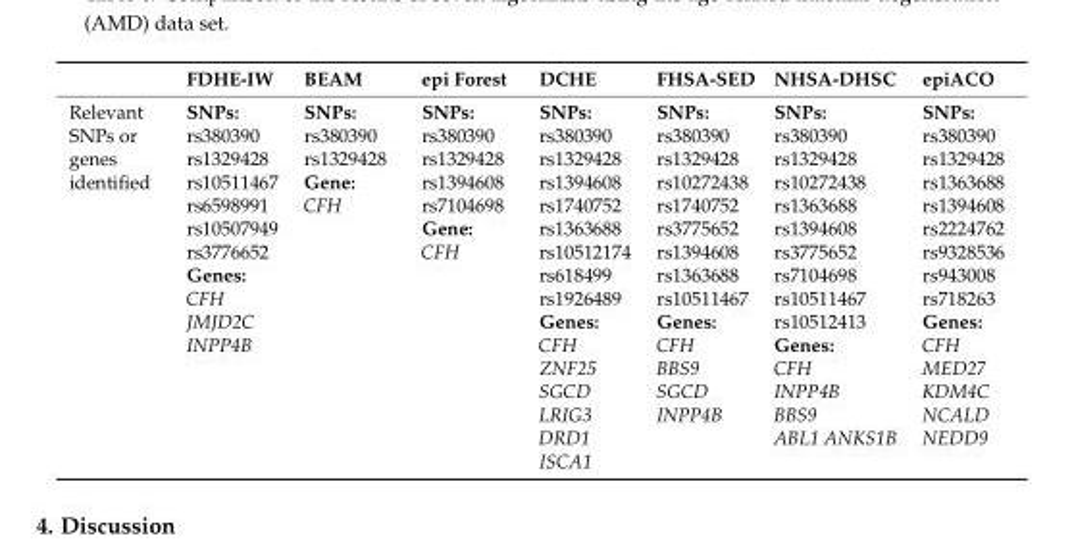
<table><thead><tr><td></td><td>FDHE-IW</td><td>BEAM</td><td>epi Forest</td><td>DCHE</td><td>FHSA-SED</td><td>NHSA-DHSC</td><td>epiACO</td></tr></thead><tbody><tr><td>Relevant SNPs or genes identified</td><td>SNPs: rs380390 rs1329428 rs10511467 rs6598991 rs10507949 rs3776652 Genes: CFH JMJD2C INPP4B</td><td>SNPs: rs380390 rs1329428 Gene: CFH</td><td>SNPs: rs380390 rs1329428 rs1394608 rs7104698 Gene: CFH</td><td>SNPs: rs380390 rs1329428 rs1394608 rs1740752 rs1363688 rs10512174 rs618499 rs1926489 Genes: CFH ZNF25 SGCD LRIG3 DRD1 ISCA1</td><td>SNPs: rs380390 rs1329428 rs10272438 rs1740752 rs3775652 rs1394608 rs1363688 rs10511467 Genes: CFH BBS9 SGCD INPP4B</td><td>SNPs: rs380390 rs1329428 rs10272438 rs1363688 rs1394608 rs3775652 rs7104698 rs10511467 rs10512413 Genes: CFH INPP4B BBS9 ABL1 ANKS1B</td><td>SNPs: rs380390 rs1329428 rs1363688 rs1394608 rs2224762 rs9328536 rs943008 rs718263 Genes: CFH MED27 KDM4C NCALD NEDD9</td></tr></tbody></table>